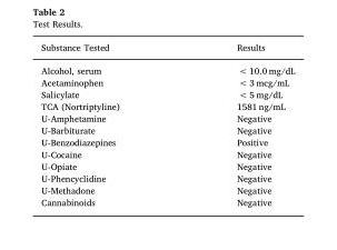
<table><thead><tr><td>Substance Tested</td><td>Results</td></tr></thead><tbody><tr><td>Alcohol, serum</td><td>&lt; 10.0 mg/dL</td></tr><tr><td>Acetaminophen</td><td>&lt; 3 mcg/mL</td></tr><tr><td>Salicylate</td><td>&lt; 5 mg/dL</td></tr><tr><td>TCA (Nortriptyline)</td><td>1581 ng/mL</td></tr><tr><td>U-Amphetamine</td><td>Negative</td></tr><tr><td>U-Barbiturate</td><td>Negative</td></tr><tr><td>U-Benzodiazepines</td><td>Positive</td></tr><tr><td>U-Cocaine</td><td>Negative</td></tr><tr><td>U-Opiate</td><td>Negative</td></tr><tr><td>U-Phencyclidine</td><td>Negative</td></tr><tr><td>U-Methadone</td><td>Negative</td></tr><tr><td>Cannabinoids</td><td>Negative</td></tr></tbody></table>